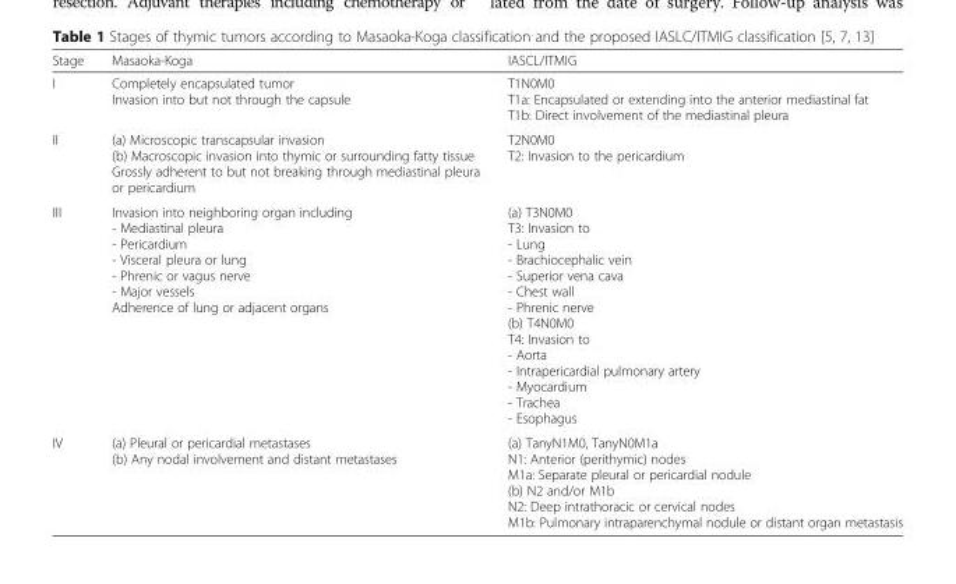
<table><thead><tr><td>Stage</td><td>Masaoka-Koga</td><td>IASCL/ITMIG</td></tr></thead><tbody><tr><td>I</td><td>Completely encapsulated tumor Invasion into but not through the capsule</td><td>T1N0M0 T1a: Encapsulated or extending into the anterior mediastinal fat T1b: Direct involvement of the mediastinal pleura</td></tr><tr><td>II</td><td>(a) Microscopic transcapsular invasion (b) Macroscopic invasion into thymic or surrounding fatty tissue Grossly adherent to but not breaking through mediastinal pleura or pericardium</td><td>T2N0M0 T2: Invasion to the pericardium</td></tr><tr><td>III</td><td>Invasion into neighboring organ including - Mediastinal pleura - Pericardium - Visceral pleura or lung - Phrenic or vagus nerve - Major vessels Adherence of lung or adjacent organs</td><td>(a) T3N0M0 T3: Invasion to - Lung - Brachiocephalic vein - Superior vena cava - Chest wall - Phrenic nerve (b) T4N0M0 T4: Invasion to - Aorta - Intrapericardial pulmonary artery - Myocardium - Trachea - Esophagus</td></tr><tr><td>IV</td><td>(a) Pleural or pericardial metastases (b) Any nodal involvement and distant metastases</td><td>(a) TanyN1M0, TanyN0M1a N1: Anterior (perithymic) nodes M1a: Separate pleural or pericardial nodule (b) N2 and/or M1b N2: Deep intrathoracic or cervical nodes M1b: Pulmonary intraparenchymal nodule or distant organ metastasis</td></tr></tbody></table>